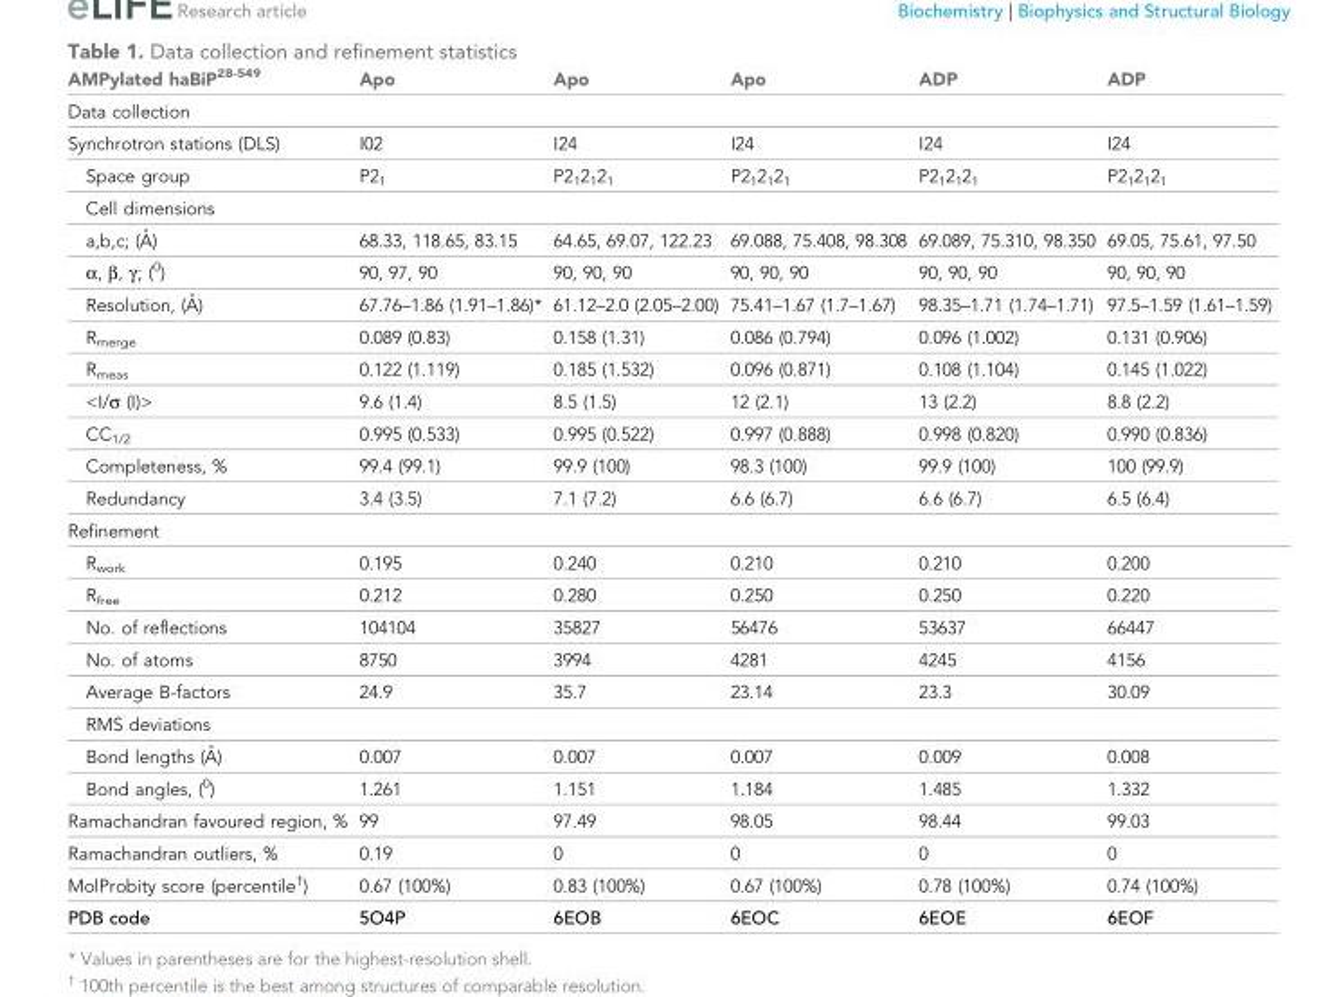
<table><thead><tr><td>AMPylated haBiP<sup>28-549</sup></td><td>Apo</td><td>Apo</td><td>Apo</td><td>ADP</td><td>ADP</td></tr></thead><tbody><tr><td colspan="6">Data collection</td></tr><tr><td>Synchrotron stations (DLS)</td><td>I02</td><td>I24</td><td>I24</td><td>I24</td><td>I24</td></tr><tr><td>Space group</td><td>P2<sub>1</sub></td><td>P2<sub>1</sub>2<sub>1</sub>2<sub>1</sub></td><td>P2<sub>1</sub>2<sub>1</sub>2<sub>1</sub></td><td>P2<sub>1</sub>2<sub>1</sub>2<sub>1</sub></td><td>P2<sub>1</sub>2<sub>1</sub>2<sub>1</sub></td></tr><tr><td colspan="6">Cell dimensions</td></tr><tr><td>a,b,c; (A˚ )</td><td>68.33, 118.65, 83.15</td><td>64.65, 69.07, 122.23</td><td>69.088, 75.408, 98.308</td><td>69.089, 75.310, 98.350</td><td>69.05, 75.61, 97.50</td></tr><tr><td>α, β, γ; (<sup>0</sup>)</td><td>90, 97, 90</td><td>90, 90, 90</td><td>90, 90, 90</td><td>90, 90, 90</td><td>90, 90, 90</td></tr><tr><td>Resolution, (A˚ )</td><td>67.76–1.86 (1.91–1.86)*</td><td>61.12–2.0 (2.05–2.00)</td><td>75.41–1.67 (1.7–1.67)</td><td>98.35–1.71 (1.74–1.71)</td><td>97.5–1.59 (1.61–1.59)</td></tr><tr><td>R<sub>merge</sub></td><td>0.089 (0.83)</td><td>0.158 (1.31)</td><td>0.086 (0.794)</td><td>0.096 (1.002)</td><td>0.131 (0.906)</td></tr><tr><td>R<sub>meas</sub></td><td>0.122 (1.119)</td><td>0.185 (1.532)</td><td>0.096 (0.871)</td><td>0.108 (1.104)</td><td>0.145 (1.022)</td></tr><tr><td>&lt;I/σ (I)&gt;</td><td>9.6 (1.4)</td><td>8.5 (1.5)</td><td>12 (2.1)</td><td>13 (2.2)</td><td>8.8 (2.2)</td></tr><tr><td>CC<sub>1/2</sub></td><td>0.995 (0.533)</td><td>0.995 (0.522)</td><td>0.997 (0.888)</td><td>0.998 (0.820)</td><td>0.990 (0.836)</td></tr><tr><td>Completeness, %</td><td>99.4 (99.1)</td><td>99.9 (100)</td><td>98.3 (100)</td><td>99.9 (100)</td><td>100 (99.9)</td></tr><tr><td>Redundancy</td><td>3.4 (3.5)</td><td>7.1 (7.2)</td><td>6.6 (6.7)</td><td>6.6 (6.7)</td><td>6.5 (6.4)</td></tr><tr><td colspan="6">Refinement</td></tr><tr><td>R<sub>work</sub></td><td>0.195</td><td>0.240</td><td>0.210</td><td>0.210</td><td>0.200</td></tr><tr><td>R<sub>free</sub></td><td>0.212</td><td>0.280</td><td>0.250</td><td>0.250</td><td>0.220</td></tr><tr><td>No. of reflections</td><td>104104</td><td>35827</td><td>56476</td><td>53637</td><td>66447</td></tr><tr><td>No. of atoms</td><td>8750</td><td>3994</td><td>4281</td><td>4245</td><td>4156</td></tr><tr><td>Average B-factors</td><td>24.9</td><td>35.7</td><td>23.14</td><td>23.3</td><td>30.09</td></tr><tr><td colspan="6">RMS deviations</td></tr><tr><td>Bond lengths (A˚ )</td><td>0.007</td><td>0.007</td><td>0.007</td><td>0.009</td><td>0.008</td></tr><tr><td>Bond angles, (<sup>0</sup>)</td><td>1.261</td><td>1.151</td><td>1.184</td><td>1.485</td><td>1.332</td></tr><tr><td>Ramachandran favoured region, %</td><td>99</td><td>97.49</td><td>98.05</td><td>98.44</td><td>99.03</td></tr><tr><td>Ramachandran outliers, %</td><td>0.19</td><td>0</td><td>0</td><td>0</td><td>0</td></tr><tr><td>MolProbity score (percentile<sup>†</sup>)</td><td>0.67 (100%)</td><td>0.83 (100%)</td><td>0.67 (100%)</td><td>0.78 (100%)</td><td>0.74 (100%)</td></tr><tr><td>PDB code</td><td>5O4P</td><td>6EOB</td><td>6EOC</td><td>6EOE</td><td>6EOF</td></tr></tbody></table>